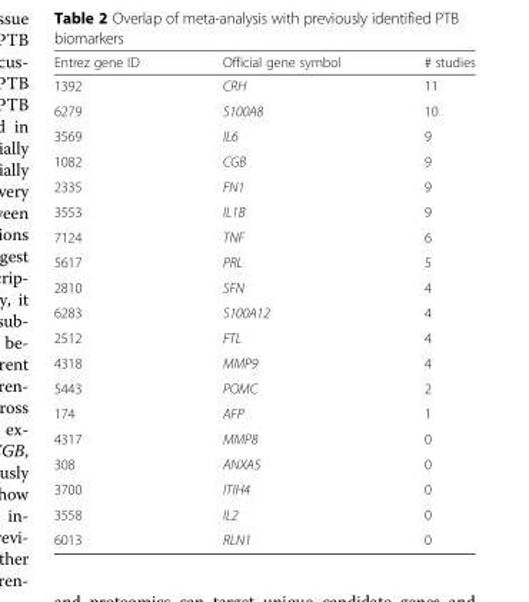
<table><thead><tr><td>Entrez gene ID</td><td>Official gene symbol</td><td># studies</td></tr></thead><tbody><tr><td>1392</td><td>CRH</td><td>11</td></tr><tr><td>6279</td><td>S100A8</td><td>10</td></tr><tr><td>3569</td><td>IL6</td><td>9</td></tr><tr><td>1082</td><td>CGB</td><td>9</td></tr><tr><td>2335</td><td>FN1</td><td>9</td></tr><tr><td>3553</td><td>IL1B</td><td>9</td></tr><tr><td>7124</td><td>TNF</td><td>6</td></tr><tr><td>5617</td><td>PRL</td><td>5</td></tr><tr><td>2810</td><td>SFN</td><td>4</td></tr><tr><td>6283</td><td>S100A12</td><td>4</td></tr><tr><td>2512</td><td>FTL</td><td>4</td></tr><tr><td>4318</td><td>MMP9</td><td>4</td></tr><tr><td>5443</td><td>POMC</td><td>2</td></tr><tr><td>174</td><td>AFP</td><td>1</td></tr><tr><td>4317</td><td>MMP8</td><td>0</td></tr><tr><td>308</td><td>ANXA5</td><td>0</td></tr><tr><td>3700</td><td>ITIH4</td><td>0</td></tr><tr><td>3558</td><td>IL2</td><td>0</td></tr><tr><td>6013</td><td>RLN1</td><td>0</td></tr></tbody></table>